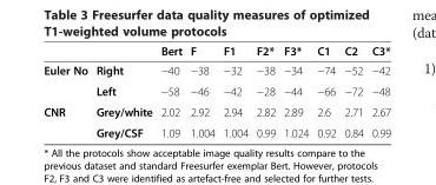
<table><thead><tr><td></td><td></td><td>Bert</td><td>F</td><td>F1</td><td>F2*</td><td>F3*</td><td>C1</td><td>C2</td><td>C3*</td></tr></thead><tbody><tr><td rowspan="2">Euler No</td><td>Right</td><td>−40</td><td>−38</td><td>−32</td><td>−38</td><td>−34</td><td>−74</td><td>−52</td><td>−42</td></tr><tr><td>Left</td><td>−58</td><td>−46</td><td>−42</td><td>−28</td><td>−44</td><td>−66</td><td>−72</td><td>−48</td></tr><tr><td rowspan="2">CNR</td><td>Grey/white</td><td>2.02</td><td>2.92</td><td>2.94</td><td>2.82</td><td>2.89</td><td>2.6</td><td>2.71</td><td>2.67</td></tr><tr><td>Grey/CSF</td><td>1.09</td><td>1.004</td><td>1.004</td><td>0.99</td><td>1.024</td><td>0.92</td><td>0.84</td><td>0.99</td></tr></tbody></table>